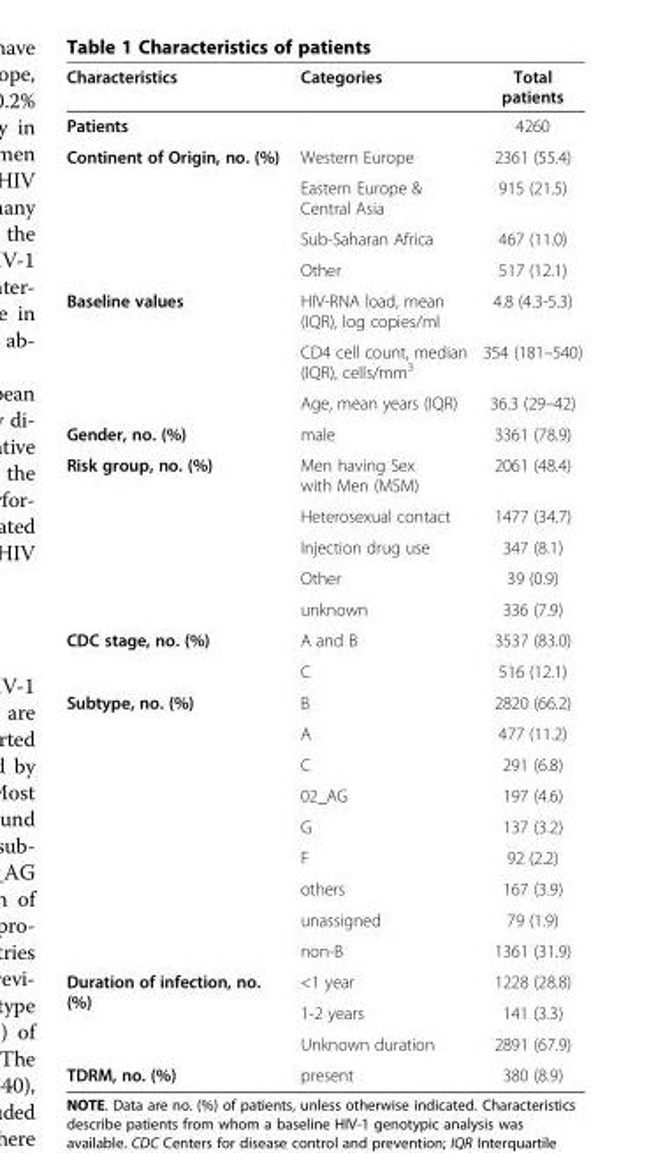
<table><thead><tr><td>Characteristics</td><td>Categories</td><td>Total patients</td></tr></thead><tbody><tr><td>Patients</td><td></td><td>4260</td></tr><tr><td rowspan="4">Continent of Origin, no. (%)</td><td>Western Europe</td><td>2361 (55.4)</td></tr><tr><td>Eastern Europe &amp; Central Asia</td><td>915 (21.5)</td></tr><tr><td>Sub-Saharan Africa</td><td>467 (11.0)</td></tr><tr><td>Other</td><td>517 (12.1)</td></tr><tr><td rowspan="3">Baseline values</td><td>HIV-RNA load, mean (IQR), log copies/ml</td><td>4.8 (4.3-5.3)</td></tr><tr><td>CD4 cell count, median (IQR), cells/mm<sup>3</sup></td><td>354 (181–540)</td></tr><tr><td>Age, mean years (IQR)</td><td>36.3 (29–42)</td></tr><tr><td>Gender, no. (%)</td><td>male</td><td>3361 (78.9)</td></tr><tr><td rowspan="5">Risk group, no. (%)</td><td>Men having Sex with Men (MSM)</td><td>2061 (48.4)</td></tr><tr><td>Heterosexual contact</td><td>1477 (34.7)</td></tr><tr><td>Injection drug use</td><td>347 (8.1)</td></tr><tr><td>Other</td><td>39 (0.9)</td></tr><tr><td>unknown</td><td>336 (7.9)</td></tr><tr><td rowspan="2">CDC stage, no. (%)</td><td>A and B</td><td>3537 (83.0)</td></tr><tr><td>C</td><td>516 (12.1)</td></tr><tr><td rowspan="9">Subtype, no. (%)</td><td>B</td><td>2820 (66.2)</td></tr><tr><td>A</td><td>477 (11.2)</td></tr><tr><td>C</td><td>291 (6.8)</td></tr><tr><td>02_AG</td><td>197 (4.6)</td></tr><tr><td>G</td><td>137 (3.2)</td></tr><tr><td>F</td><td>92 (2.2)</td></tr><tr><td>others</td><td>167 (3.9)</td></tr><tr><td>unassigned</td><td>79 (1.9)</td></tr><tr><td>non-B</td><td>1361 (31.9)</td></tr><tr><td rowspan="3">Duration of infection, no. (%)</td><td>&lt;1 year</td><td>1228 (28.8)</td></tr><tr><td>1-2 years</td><td>141 (3.3)</td></tr><tr><td>Unknown duration</td><td>2891 (67.9)</td></tr><tr><td>TDRM, no. (%)</td><td>present</td><td>380 (8.9)</td></tr></tbody></table>